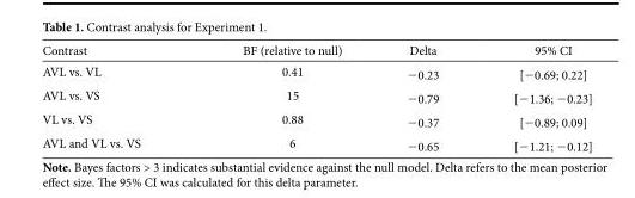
<table><thead><tr><td>Contrast</td><td>BF (relative to null)</td><td>Delta</td><td>95% CI</td></tr></thead><tbody><tr><td>AVL vs. VL</td><td>0.41</td><td>−0.23</td><td>[−0.69; 0.22]</td></tr><tr><td>AVL vs. VS</td><td>15</td><td>−0.79</td><td>[−1.36; −0.23]</td></tr><tr><td>VL vs. VS</td><td>0.88</td><td>−0.37</td><td>[−0.89; 0.09]</td></tr><tr><td>AVL and VL vs. VS</td><td>6</td><td>−0.65</td><td>[−1.21; −0.12]</td></tr></tbody></table>